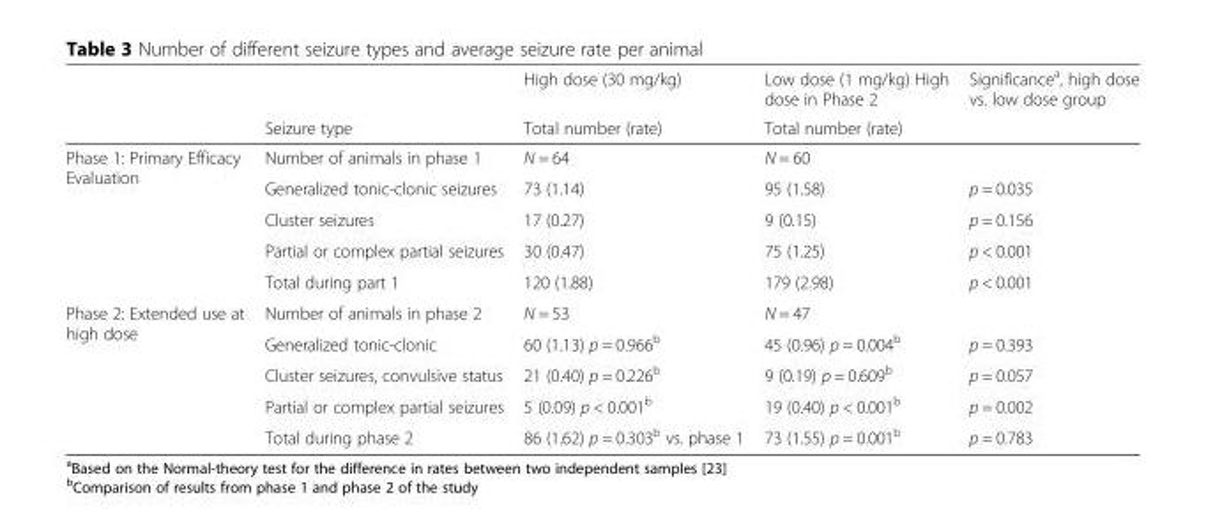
<table><thead><tr><td rowspan="2"></td><td rowspan="2">Seizure type</td><td rowspan="2">High dose (30 mg/kg) Total number (rate)</td><td rowspan="2">Low dose (1 mg/kg) High dose in Phase 2 Total number (rate)</td><td rowspan="2">Significance<sup>a</sup>, high dose vs. low dose group</td></tr><tr></tr></thead><tbody><tr><td rowspan="5">Phase 1: Primary Efficacy Evaluation</td><td>Number of animals in phase 1</td><td>N = 64</td><td>N = 60</td><td></td></tr><tr><td>Generalized tonic-clonic seizures</td><td>73 (1.14)</td><td>95 (1.58)</td><td>p = 0.035</td></tr><tr><td>Cluster seizures</td><td>17 (0.27)</td><td>9 (0.15)</td><td>p = 0.156</td></tr><tr><td>Partial or complex partial seizures</td><td>30 (0.47)</td><td>75 (1.25)</td><td>p &lt; 0.001</td></tr><tr><td>Total during part 1</td><td>120 (1.88)</td><td>179 (2.98)</td><td>p &lt; 0.001</td></tr><tr><td rowspan="5">Phase 2: Extended use at high dose</td><td>Number of animals in phase 2</td><td>N = 53</td><td>N = 47</td><td></td></tr><tr><td>Generalized tonic-clonic</td><td>60 (1.13) p = 0.966<sup>b</sup></td><td>45 (0.96) p = 0.004<sup>b</sup></td><td>p = 0.393</td></tr><tr><td>Cluster seizures, convulsive status</td><td>21 (0.40) p = 0.226<sup>b</sup></td><td>9 (0.19) p = 0.609<sup>b</sup></td><td>p = 0.057</td></tr><tr><td>Partial or complex partial seizures</td><td>5 (0.09) p &lt; 0.001<sup>b</sup></td><td>19 (0.40) p &lt; 0.001<sup>b</sup></td><td>p = 0.002</td></tr><tr><td>Total during phase 2</td><td>86 (1.62) p = 0.303<sup>b</sup> vs. phase 1</td><td>73 (1.55) p = 0.001<sup>b</sup></td><td>p = 0.783</td></tr></tbody></table>